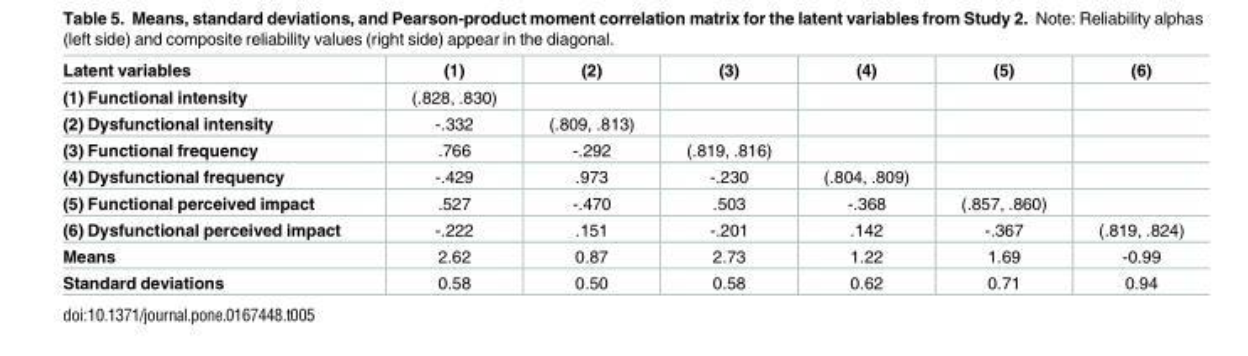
<table><thead><tr><td>Latent variables</td><td>(1)</td><td>(2)</td><td>(3)</td><td>(4)</td><td>(5)</td><td>(6)</td></tr></thead><tbody><tr><td>(1) Functional intensity</td><td>(.828, .830)</td><td></td><td></td><td></td><td></td><td></td></tr><tr><td>(2) Dysfunctional intensity</td><td>-.332</td><td>(.809, .813)</td><td></td><td></td><td></td><td></td></tr><tr><td>(3) Functional frequency</td><td>.766</td><td>-.292</td><td>(.819, .816)</td><td></td><td></td><td></td></tr><tr><td>(4) Dysfunctional frequency</td><td>-.429</td><td>.973</td><td>-.230</td><td>(.804, .809)</td><td></td><td></td></tr><tr><td>(5) Functional perceived impact</td><td>.527</td><td>-.470</td><td>.503</td><td>-.368</td><td>(.857, .860)</td><td></td></tr><tr><td>(6) Dysfunctional perceived impact</td><td>-.222</td><td>.151</td><td>-.201</td><td>.142</td><td>-.367</td><td>(.819, .824)</td></tr><tr><td>Means</td><td>2.62</td><td>0.87</td><td>2.73</td><td>1.22</td><td>1.69</td><td>-0.99</td></tr><tr><td>Standard deviations</td><td>0.58</td><td>0.50</td><td>0.58</td><td>0.62</td><td>0.71</td><td>0.94</td></tr></tbody></table>